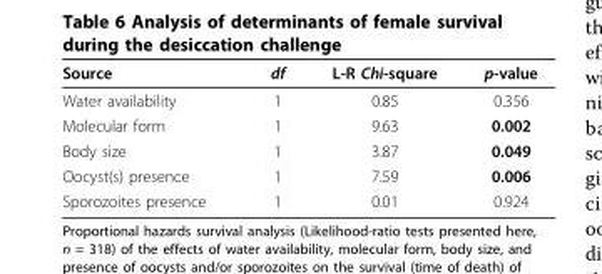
<table><thead><tr><td>Source</td><td>df</td><td>L-R Chi-square</td><td>p-value</td></tr></thead><tbody><tr><td>Water availability</td><td>1</td><td>0.85</td><td>0.356</td></tr><tr><td>Molecular form</td><td>1</td><td>9.63</td><td>0.002</td></tr><tr><td>Body size</td><td>1</td><td>3.87</td><td>0.049</td></tr><tr><td>Oocyst(s) presence</td><td>1</td><td>7.59</td><td>0.006</td></tr><tr><td>Sporozoites presence</td><td>1</td><td>0.01</td><td>0.924</td></tr></tbody></table>